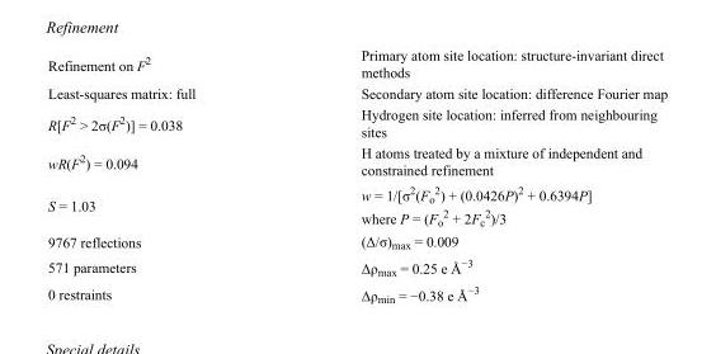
<table><tbody><tr><td>Refinement on F<sup>2</sup></td><td>Primary atom site location: structure-invariant direct methods</td></tr><tr><td>Least-squares matrix: full</td><td>Secondary atom site location: difference Fourier map</td></tr><tr><td>R[F<sup>2</sup> &gt; 2σ(F<sup>2</sup>)] = 0.038</td><td>Hydrogen site location: inferred from neighbouring sites</td></tr><tr><td>wR(F<sup>2</sup>) = 0.094</td><td>H atoms treated by a mixture of independent and constrained refinement</td></tr><tr><td>S = 1.03</td><td>w = 1/[σ<sup>2</sup>(F<sub>o</sub> <sup>2</sup>) + (0.0426P)<sup>2</sup> + 0.6394P] where P = (F<sub>o</sub> <sup>2</sup> + 2F<sub>c</sub> <sup>2</sup>)/3</td></tr><tr><td>9767 reflections</td><td>(Δ/σ)<sub>max</sub> = 0.009</td></tr><tr><td>571 parameters</td><td>Δρ<sub>max</sub> = 0.25 e Å<sup>−3</sup></td></tr><tr><td>0 restraints</td><td>Δρ<sub>min</sub> = −0.38 e Å<sup>−3</sup></td></tr></tbody></table>